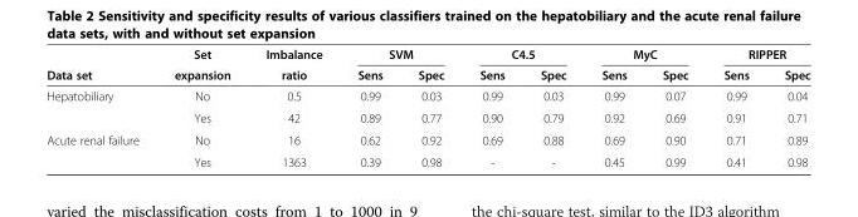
<table><thead><tr><td rowspan="2">Data set</td><td rowspan="2">Set expansion</td><td rowspan="2">Imbalance ratio</td><td colspan="2">SVM</td><td colspan="2">C4.5</td><td colspan="2">MyC</td><td colspan="2">RIPPER</td></tr><tr><td>Sens</td><td>Spec</td><td>Sens</td><td>Spec</td><td>Sens</td><td>Spec</td><td>Sens</td><td>Spec</td></tr></thead><tbody><tr><td rowspan="2">Hepatobiliary</td><td>No</td><td>0.5</td><td>0.99</td><td>0.03</td><td>0.99</td><td>0.03</td><td>0.99</td><td>0.07</td><td>0.99</td><td>0.04</td></tr><tr><td>Yes</td><td>42</td><td>0.89</td><td>0.77</td><td>0.90</td><td>0.79</td><td>0.92</td><td>0.69</td><td>0.91</td><td>0.71</td></tr><tr><td rowspan="2">Acute renal failure</td><td>No</td><td>16</td><td>0.62</td><td>0.92</td><td>0.69</td><td>0.88</td><td>0.69</td><td>0.90</td><td>0.71</td><td>0.89</td></tr><tr><td>Yes</td><td>1363</td><td>0.39</td><td>0.98</td><td>-</td><td>-</td><td>0.45</td><td>0.99</td><td>0.41</td><td>0.98</td></tr></tbody></table>